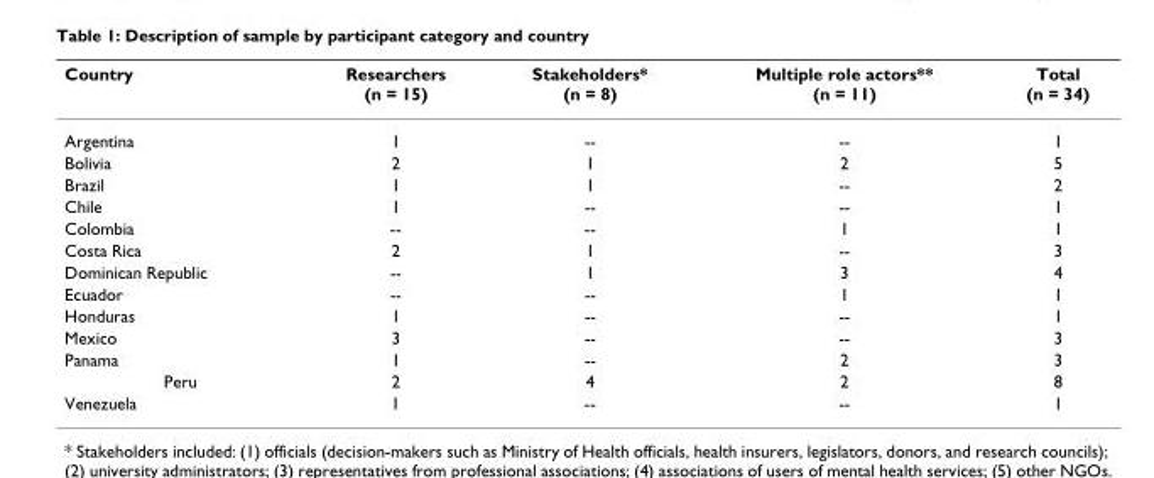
<table><thead><tr><td>Country</td><td>Researchers (n = 15)</td><td>Stakeholders* (n = 8)</td><td>Multiple role actors** (n = 11)</td><td>Total (n = 34)</td></tr></thead><tbody><tr><td>Argentina</td><td>1</td><td>--</td><td>--</td><td>1</td></tr><tr><td>Bolivia</td><td>2</td><td>1</td><td>2</td><td>5</td></tr><tr><td>Brazil</td><td>1</td><td>1</td><td>--</td><td>2</td></tr><tr><td>Chile</td><td>1</td><td>--</td><td>--</td><td>1</td></tr><tr><td>Colombia</td><td>--</td><td>--</td><td>1</td><td>1</td></tr><tr><td>Costa Rica</td><td>2</td><td>1</td><td>--</td><td>3</td></tr><tr><td>Dominican Republic</td><td>--</td><td>1</td><td>3</td><td>4</td></tr><tr><td>Ecuador</td><td>--</td><td>--</td><td>1</td><td>1</td></tr><tr><td>Honduras</td><td>1</td><td>--</td><td>--</td><td>1</td></tr><tr><td>Mexico</td><td>3</td><td>--</td><td>--</td><td>3</td></tr><tr><td>Panama</td><td>1</td><td>--</td><td>2</td><td>3</td></tr><tr><td>Peru</td><td>2</td><td>4</td><td>2</td><td>8</td></tr><tr><td>Venezuela</td><td>1</td><td>--</td><td>--</td><td>1</td></tr></tbody></table>